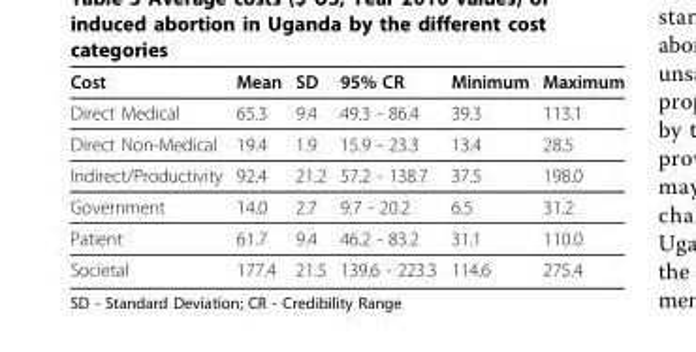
<table><thead><tr><td>Cost</td><td>Mean</td><td>SD</td><td>95% CR</td><td>Minimum</td><td>Maximum</td></tr></thead><tbody><tr><td>Direct Medical</td><td>65.3</td><td>9.4</td><td>49.3 - 86.4</td><td>39.3</td><td>113.1</td></tr><tr><td>Direct Non-Medical</td><td>19.4</td><td>1.9</td><td>15.9 - 23.3</td><td>13.4</td><td>28.5</td></tr><tr><td>Indirect/Productivity</td><td>92.4</td><td>21.2</td><td>57.2 - 138.7</td><td>37.5</td><td>198.0</td></tr><tr><td>Government</td><td>14.0</td><td>2.7</td><td>9.7 - 20.2</td><td>6.5</td><td>31.2</td></tr><tr><td>Patient</td><td>61.7</td><td>9.4</td><td>46.2 - 83.2</td><td>31.1</td><td>110.0</td></tr><tr><td>Societal</td><td>177.4</td><td>21.5</td><td>139.6 - 223.3</td><td>114.6</td><td>275.4</td></tr></tbody></table>